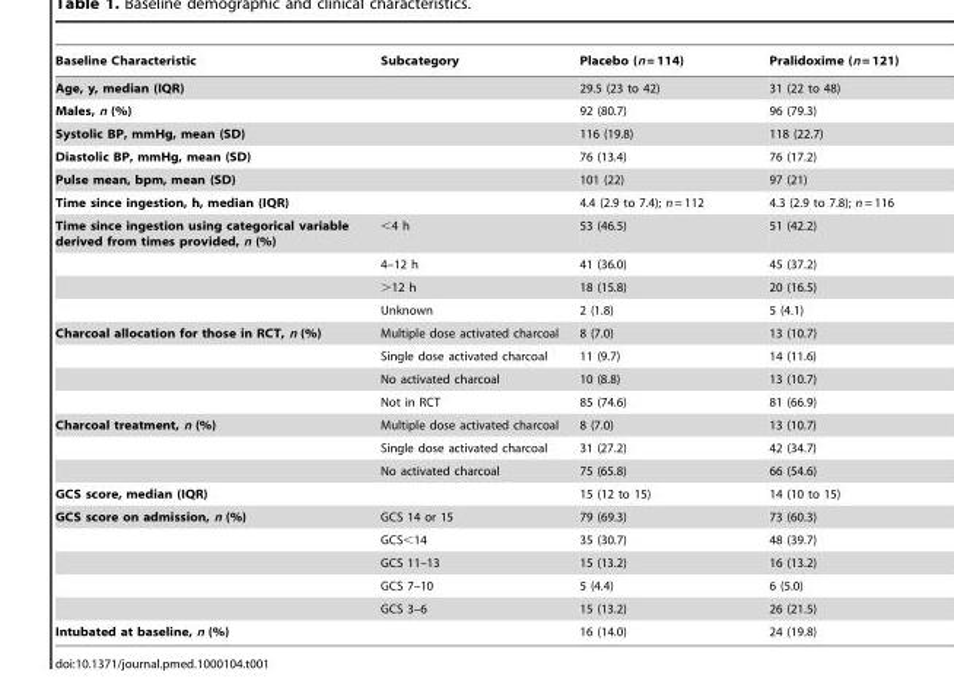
<table><thead><tr><td>Baseline Characteristic</td><td>Subcategory</td><td>Placebo (n = 114)</td><td>Pralidoxime (n = 121)</td></tr></thead><tbody><tr><td>Age, y, median (IQR)</td><td></td><td>29.5 (23 to 42)</td><td>31 (22 to 48)</td></tr><tr><td>Males, n (%)</td><td></td><td>92 (80.7)</td><td>96 (79.3)</td></tr><tr><td>Systolic BP, mmHg, mean (SD)</td><td></td><td>116 (19.8)</td><td>118 (22.7)</td></tr><tr><td>Diastolic BP, mmHg, mean (SD)</td><td></td><td>76 (13.4)</td><td>76 (17.2)</td></tr><tr><td>Pulse mean, bpm, mean (SD)</td><td></td><td>101 (22)</td><td>97 (21)</td></tr><tr><td>Time since ingestion, h, median (IQR)</td><td></td><td>4.4 (2.9 to 7.4); n = 112</td><td>4.3 (2.9 to 7.8); n = 116</td></tr><tr><td rowspan="4">Time since ingestion using categorical variable derived from times provided, n (%)</td><td>&lt;4 h</td><td>53 (46.5)</td><td>51 (42.2)</td></tr><tr><td>4–12 h</td><td>41 (36.0)</td><td>45 (37.2)</td></tr><tr><td>&gt;12 h</td><td>18 (15.8)</td><td>20 (16.5)</td></tr><tr><td>Unknown</td><td>2 (1.8)</td><td>5 (4.1)</td></tr><tr><td rowspan="4">Charcoal allocation for those in RCT, n (%)</td><td>Multiple dose activated charcoal</td><td>8 (7.0)</td><td>13 (10.7)</td></tr><tr><td>Single dose activated charcoal</td><td>11 (9.7)</td><td>14 (11.6)</td></tr><tr><td>No activated charcoal</td><td>10 (8.8)</td><td>13 (10.7)</td></tr><tr><td>Not in RCT</td><td>85 (74.6)</td><td>81 (66.9)</td></tr><tr><td rowspan="3">Charcoal treatment, n (%)</td><td>Multiple dose activated charcoal</td><td>8 (7.0)</td><td>13 (10.7)</td></tr><tr><td>Single dose activated charcoal</td><td>31 (27.2)</td><td>42 (34.7)</td></tr><tr><td>No activated charcoal</td><td>75 (65.8)</td><td>66 (54.6)</td></tr><tr><td>GCS score, median (IQR)</td><td></td><td>15 (12 to 15)</td><td>14 (10 to 15)</td></tr><tr><td rowspan="5">GCS score on admission, n (%)</td><td>GCS 14 or 15</td><td>79 (69.3)</td><td>73 (60.3)</td></tr><tr><td>GCS&lt;14</td><td>35 (30.7)</td><td>48 (39.7)</td></tr><tr><td>GCS 11–13</td><td>15 (13.2)</td><td>16 (13.2)</td></tr><tr><td>GCS 7–10</td><td>5 (4.4)</td><td>6 (5.0)</td></tr><tr><td>GCS 3–6</td><td>15 (13.2)</td><td>26 (21.5)</td></tr><tr><td>Intubated at baseline, n (%)</td><td></td><td>16 (14.0)</td><td>24 (19.8)</td></tr></tbody></table>